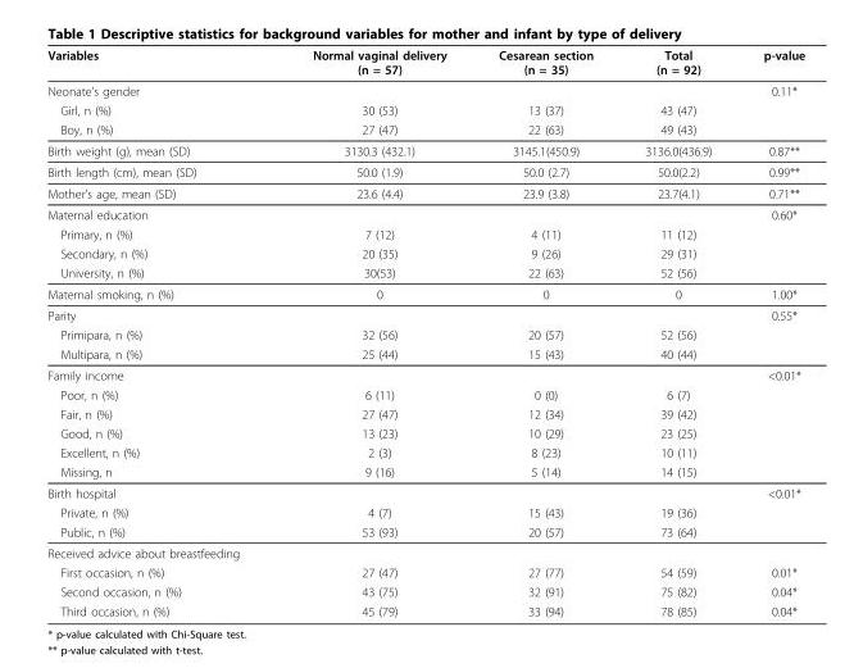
<table><thead><tr><td>Variables</td><td>Normal vaginal delivery (n = 57)</td><td>Cesarean section (n = 35)</td><td>Total (n = 92)</td><td>p-value</td></tr></thead><tbody><tr><td>Neonate’s gender</td><td></td><td></td><td></td><td>0.11*</td></tr><tr><td>Girl, n (%)</td><td>30 (53)</td><td>13 (37)</td><td>43 (47)</td><td></td></tr><tr><td>Boy, n (%)</td><td>27 (47)</td><td>22 (63)</td><td>49 (43)</td><td></td></tr><tr><td>Birth weight (g), mean (SD)</td><td>3130.3 (432.1)</td><td>3145.1(450.9)</td><td>3136.0(436.9)</td><td>0.87**</td></tr><tr><td>Birth length (cm), mean (SD)</td><td>50.0 (1.9)</td><td>50.0 (2.7)</td><td>50.0(2.2)</td><td>0.99**</td></tr><tr><td>Mother’s age, mean (SD)</td><td>23.6 (4.4)</td><td>23.9 (3.8)</td><td>23.7(4.1)</td><td>0.71**</td></tr><tr><td>Maternal education</td><td></td><td></td><td></td><td>0.60*</td></tr><tr><td>Primary, n (%)</td><td>7 (12)</td><td>4 (11)</td><td>11 (12)</td><td></td></tr><tr><td>Secondary, n (%)</td><td>20 (35)</td><td>9 (26)</td><td>29 (31)</td><td></td></tr><tr><td>University, n (%)</td><td>30(53)</td><td>22 (63)</td><td>52 (56)</td><td></td></tr><tr><td>Maternal smoking, n (%)</td><td>0</td><td>0</td><td>0</td><td>1.00*</td></tr><tr><td>Parity</td><td></td><td></td><td></td><td>0.55*</td></tr><tr><td>Primipara, n (%)</td><td>32 (56)</td><td>20 (57)</td><td>52 (56)</td><td></td></tr><tr><td>Multipara, n (%)</td><td>25 (44)</td><td>15 (43)</td><td>40 (44)</td><td></td></tr><tr><td>Family income</td><td></td><td></td><td></td><td>&lt;0.01*</td></tr><tr><td>Poor, n (%)</td><td>6 (11)</td><td>0 (0)</td><td>6 (7)</td><td></td></tr><tr><td>Fair, n (%)</td><td>27 (47)</td><td>12 (34)</td><td>39 (42)</td><td></td></tr><tr><td>Good, n (%)</td><td>13 (23)</td><td>10 (29)</td><td>23 (25)</td><td></td></tr><tr><td>Excellent, n (%)</td><td>2 (3)</td><td>8 (23)</td><td>10 (11)</td><td></td></tr><tr><td>Missing, n</td><td>9 (16)</td><td>5 (14)</td><td>14 (15)</td><td></td></tr><tr><td>Birth hospital</td><td></td><td></td><td></td><td>&lt;0.01*</td></tr><tr><td>Private, n (%)</td><td>4 (7)</td><td>15 (43)</td><td>19 (36)</td><td></td></tr><tr><td>Public, n (%)</td><td>53 (93)</td><td>20 (57)</td><td>73 (64)</td><td></td></tr><tr><td colspan="5">Received advice about breastfeeding</td></tr><tr><td>First occasion, n (%)</td><td>27 (47)</td><td>27 (77)</td><td>54 (59)</td><td>0.01*</td></tr><tr><td>Second occasion, n (%)</td><td>43 (75)</td><td>32 (91)</td><td>75 (82)</td><td>0.04*</td></tr><tr><td>Third occasion, n (%)</td><td>45 (79)</td><td>33 (94)</td><td>78 (85)</td><td>0.04*</td></tr></tbody></table>